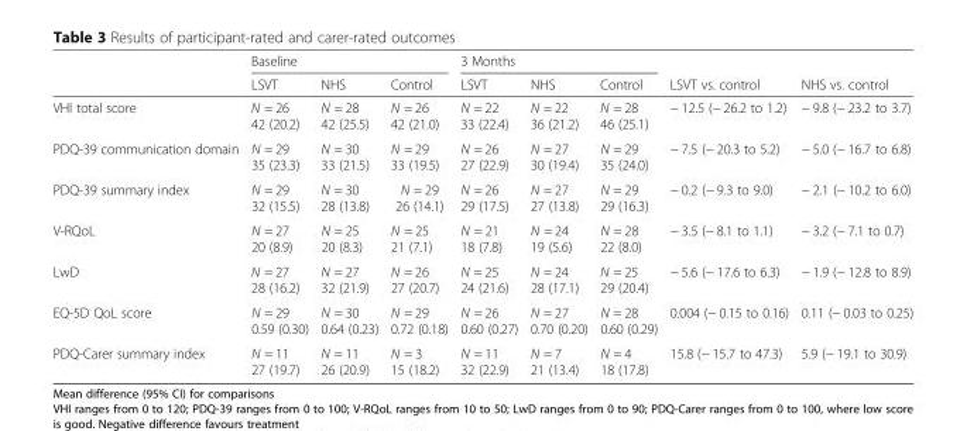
<table><thead><tr><td rowspan="2"></td><td colspan="3">Baseline</td><td colspan="3">3 Months</td><td rowspan="2">LSVT vs. control</td><td rowspan="2">NHS vs. control</td></tr><tr><td>LSVT</td><td>NHS</td><td>Control</td><td>LSVT</td><td>NHS</td><td>Control</td></tr></thead><tbody><tr><td>VHI total score</td><td>N = 26 42 (20.2)</td><td>N = 28 42 (25.5)</td><td>N = 26 42 (21.0)</td><td>N = 22 33 (22.4)</td><td>N = 22 36 (21.2)</td><td>N = 28 46 (25.1)</td><td>− 12.5 (− 26.2 to 1.2)</td><td>− 9.8 (− 23.2 to 3.7)</td></tr><tr><td>PDQ-39 communication domain</td><td>N = 29 35 (23.3)</td><td>N = 30 33 (21.5)</td><td>N = 29 33 (19.5)</td><td>N = 26 27 (22.9)</td><td>N = 27 30 (19.4)</td><td>N = 29 35 (24.0)</td><td>− 7.5 (− 20.3 to 5.2)</td><td>− 5.0 (− 16.7 to 6.8)</td></tr><tr><td>PDQ-39 summary index</td><td>N = 29 32 (15.5)</td><td>N = 30 28 (13.8)</td><td>N = 29 26 (14.1)</td><td>N = 26 29 (17.5)</td><td>N = 27 27 (13.8)</td><td>N = 29 29 (16.3)</td><td>− 0.2 (− 9.3 to 9.0)</td><td>− 2.1 (− 10.2 to 6.0)</td></tr><tr><td>V-RQoL</td><td>N = 27 20 (8.9)</td><td>N = 25 20 (8.3)</td><td>N = 25 21 (7.1)</td><td>N = 21 18 (7.8)</td><td>N = 24 19 (5.6)</td><td>N = 28 22 (8.0)</td><td>− 3.5 (− 8.1 to 1.1)</td><td>− 3.2 (− 7.1 to 0.7)</td></tr><tr><td>LwD</td><td>N = 27 28 (16.2)</td><td>N = 27 32 (21.9)</td><td>N = 26 27 (20.7)</td><td>N = 25 24 (21.6)</td><td>N = 24 28 (17.1)</td><td>N = 25 29 (20.4)</td><td>− 5.6 (− 17.6 to 6.3)</td><td>− 1.9 (− 12.8 to 8.9)</td></tr><tr><td>EQ-5D QoL score</td><td>N = 29 0.59 (0.30)</td><td>N = 30 0.64 (0.23)</td><td>N = 29 0.72 (0.18)</td><td>N = 26 0.60 (0.27)</td><td>N = 27 0.70 (0.20)</td><td>N = 28 0.60 (0.29)</td><td>0.004 (− 0.15 to 0.16)</td><td>0.11 (− 0.03 to 0.25)</td></tr><tr><td>PDQ-Carer summary index</td><td>N = 11 27 (19.7)</td><td>N = 11 26 (20.9)</td><td>N = 3 15 (18.2)</td><td>N = 11 32 (22.9)</td><td>N = 7 21 (13.4)</td><td>N = 4 18 (17.8)</td><td>15.8 (− 15.7 to 47.3)</td><td>5.9 (− 19.1 to 30.9)</td></tr></tbody></table>